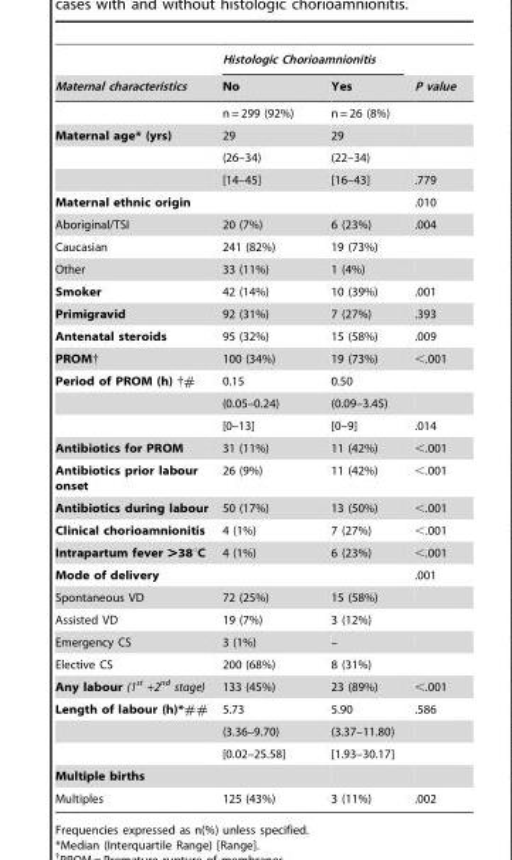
<table><thead><tr><td rowspan="2">Maternal characteristics</td><td colspan="2">Histologic Chorioamnionitis</td><td rowspan="2">P value</td></tr><tr><td>No</td><td>Yes</td></tr></thead><tbody><tr><td></td><td>n = 299 (92%)</td><td>n = 26 (8%)</td><td></td></tr><tr><td rowspan="3">Maternal age* (yrs)</td><td>29</td><td>29</td><td></td></tr><tr><td>(26–34)</td><td>(22–34)</td><td></td></tr><tr><td>[14–45]</td><td>[16–43]</td><td>.779</td></tr><tr><td>Maternal ethnic origin</td><td></td><td></td><td>.010</td></tr><tr><td>Aboriginal/TSI</td><td>20 (7%)</td><td>6 (23%)</td><td>.004</td></tr><tr><td>Caucasian</td><td>241 (82%)</td><td>19 (73%)</td><td></td></tr><tr><td>Other</td><td>33 (11%)</td><td>1 (4%)</td><td></td></tr><tr><td>Smoker</td><td>42 (14%)</td><td>10 (39%)</td><td>.001</td></tr><tr><td>Primigravid</td><td>92 (31%)</td><td>7 (27%)</td><td>.393</td></tr><tr><td>Antenatal steroids</td><td>95 (32%)</td><td>15 (58%)</td><td>.009</td></tr><tr><td>PROM†</td><td>100 (34%)</td><td>19 (73%)</td><td>&lt;.001</td></tr><tr><td rowspan="3">Period of PROM (h) †#</td><td>0.15</td><td>0.50</td><td></td></tr><tr><td>(0.05–0.24)</td><td>(0.09–3.45)</td><td></td></tr><tr><td>[0–13]</td><td>[0–9]</td><td>.014</td></tr><tr><td>Antibiotics for PROM</td><td>31 (11%)</td><td>11 (42%)</td><td>&lt;.001</td></tr><tr><td>Antibiotics prior labour onset</td><td>26 (9%)</td><td>11 (42%)</td><td>&lt;.001</td></tr><tr><td>Antibiotics during labour</td><td>50 (17%)</td><td>13 (50%)</td><td>&lt;.001</td></tr><tr><td>Clinical chorioamnionitis</td><td>4 (1%)</td><td>7 (27%)</td><td>&lt;.001</td></tr><tr><td>Intrapartum fever &gt;38°C</td><td>4 (1%)</td><td>6 (23%)</td><td>&lt;.001</td></tr><tr><td>Mode of delivery</td><td></td><td></td><td>.001</td></tr><tr><td>Spontaneous VD</td><td>72 (25%)</td><td>15 (58%)</td><td></td></tr><tr><td>Assisted VD</td><td>19 (7%)</td><td>3 (12%)</td><td></td></tr><tr><td>Emergency CS</td><td>3 (1%)</td><td>–</td><td></td></tr><tr><td>Elective CS</td><td>200 (68%)</td><td>8 (31%)</td><td></td></tr><tr><td>Any labour (1<sup>st</sup> +2<sup>nd</sup> stage)</td><td>133 (45%)</td><td>23 (89%)</td><td>&lt;.001</td></tr><tr><td rowspan="3">Length of labour (h)*##</td><td>5.73</td><td>5.90</td><td>.586</td></tr><tr><td>(3.36–9.70)</td><td>(3.37–11.80)</td><td></td></tr><tr><td>[0.02–25.58]</td><td>[1.93–30.17]</td><td></td></tr><tr><td colspan="4">Multiple births</td></tr><tr><td>Multiples</td><td>125 (43%)</td><td>3 (11%)</td><td>.002</td></tr></tbody></table>